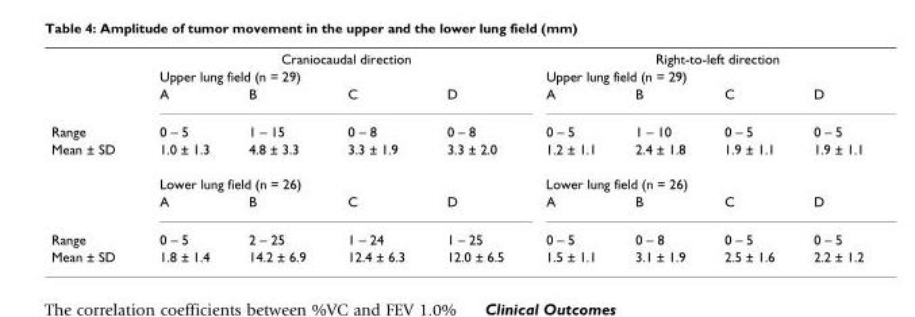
<table><thead><tr><td rowspan="3"></td><td rowspan="2" colspan="4">Craniocaudal direction Upper lung field (n = 29)</td><td rowspan="2" colspan="4">Right-to-left direction Upper lung field (n = 29)</td></tr><tr></tr><tr><td>A</td><td>B</td><td>C</td><td>D</td><td>A</td><td>B</td><td>C</td><td>D</td></tr></thead><tbody><tr><td>Range</td><td>0 – 5</td><td>1 – 15</td><td>0 – 8</td><td>0 – 8</td><td>0 – 5</td><td>1 – 10</td><td>0 – 5</td><td>0 – 5</td></tr><tr><td rowspan="3">Mean ± SD</td><td>1.0 ± 1.3</td><td>4.8 ± 3.3</td><td>3.3 ± 1.9</td><td>3.3 ± 2.0</td><td>1.2 ± 1.1</td><td>2.4 ± 1.8</td><td>1.9 ± 1.1</td><td>1.9 ± 1.1</td></tr><tr><td colspan="4">Lower lung field (n = 26)</td><td colspan="4">Lower lung field (n = 26)</td></tr><tr><td>A</td><td>B</td><td>C</td><td>D</td><td>A</td><td>B</td><td>C</td><td>D</td></tr><tr><td>Range</td><td>0 – 5</td><td>2 – 25</td><td>1 – 24</td><td>1 – 25</td><td>0 – 5</td><td>0 – 8</td><td>0 – 5</td><td>0 – 5</td></tr><tr><td>Mean ± SD</td><td>1.8 ± 1.4</td><td>14.2 ± 6.9</td><td>12.4 ± 6.3</td><td>12.0 ± 6.5</td><td>1.5 ± 1.1</td><td>3.1 ± 1.9</td><td>2.5 ± 1.6</td><td>2.2 ± 1.2</td></tr></tbody></table>